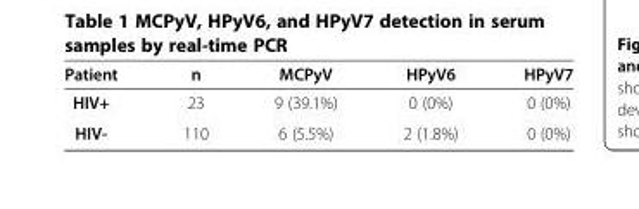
<table><thead><tr><td>Patient</td><td>n</td><td>MCPyV</td><td>HPyV6</td><td>HPyV7</td></tr></thead><tbody><tr><td>HIV+</td><td>23</td><td>9 (39.1%)</td><td>0 (0%)</td><td>0 (0%)</td></tr><tr><td>HIV-</td><td>110</td><td>6 (5.5%)</td><td>2 (1.8%)</td><td>0 (0%)</td></tr></tbody></table>